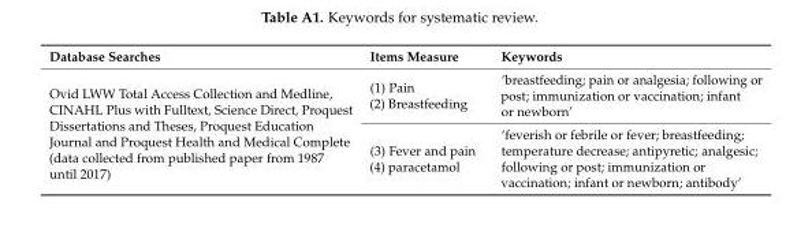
<table><thead><tr><td>Database Searches</td><td>Items Measure</td><td>Keywords</td></tr></thead><tbody><tr><td rowspan="2">Ovid LWW Total Access Collection and Medline, CINAHL Plus with Fulltext, Science Direct, Proquest Dissertations and Theses, Proquest Education Journal and Proquest Health and Medical Complete (data collected from published paper from 1987 until 2017)</td><td>(1) Pain (2) Breastfeeding</td><td>‘breastfeeding; pain or analgesia; following or post; immunization or vaccination; infant or newborn’</td></tr><tr><td>(3) Fever and pain (4) paracetamol</td><td>‘feverish or febrile or fever; breastfeeding; temperature decrease; antipyretic; analgesic; following or post; immunization or vaccination; infant or newborn; antibody’</td></tr></tbody></table>